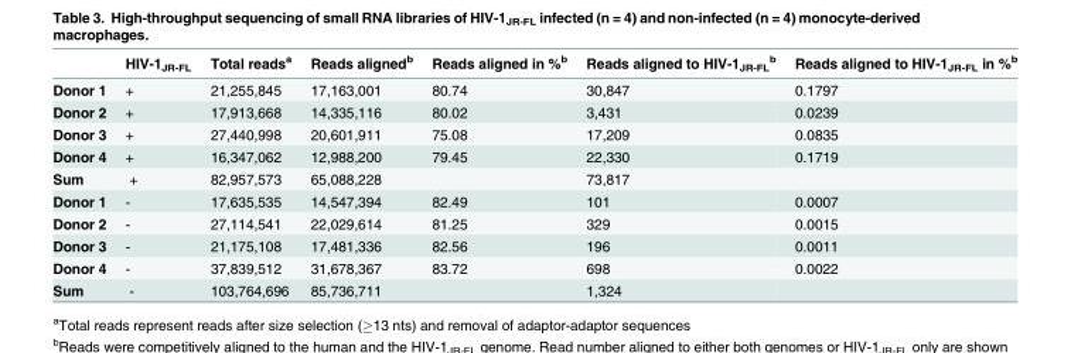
<table><thead><tr><td></td><td>HIV-1<sub>JR-FL</sub></td><td>Total reads<sup>a</sup></td><td>Reads aligned<sup>b</sup></td><td>Reads aligned in %<sup>b</sup></td><td>Reads aligned to HIV-1<sub>JR-FL</sub> <sup>b</sup></td><td>Reads aligned to HIV-1<sub>JR-FL</sub> in %<sup>b</sup></td></tr></thead><tbody><tr><td>Donor 1</td><td>+</td><td>21,255,845</td><td>17,163,001</td><td>80.74</td><td>30,847</td><td>0.1797</td></tr><tr><td>Donor 2</td><td>+</td><td>17,913,668</td><td>14,335,116</td><td>80.02</td><td>3,431</td><td>0.0239</td></tr><tr><td>Donor 3</td><td>+</td><td>27,440,998</td><td>20,601,911</td><td>75.08</td><td>17,209</td><td>0.0835</td></tr><tr><td>Donor 4</td><td>+</td><td>16,347,062</td><td>12,988,200</td><td>79.45</td><td>22,330</td><td>0.1719</td></tr><tr><td>Sum</td><td>+</td><td>82,957,573</td><td>65,088,228</td><td></td><td>73,817</td><td></td></tr><tr><td>Donor 1</td><td>-</td><td>17,635,535</td><td>14,547,394</td><td>82.49</td><td>101</td><td>0.0007</td></tr><tr><td>Donor 2</td><td>-</td><td>27,114,541</td><td>22,029,614</td><td>81.25</td><td>329</td><td>0.0015</td></tr><tr><td>Donor 3</td><td>-</td><td>21,175,108</td><td>17,481,336</td><td>82.56</td><td>196</td><td>0.0011</td></tr><tr><td>Donor 4</td><td>-</td><td>37,839,512</td><td>31,678,367</td><td>83.72</td><td>698</td><td>0.0022</td></tr><tr><td>Sum</td><td>-</td><td>103,764,696</td><td>85,736,711</td><td></td><td>1,324</td><td></td></tr></tbody></table>